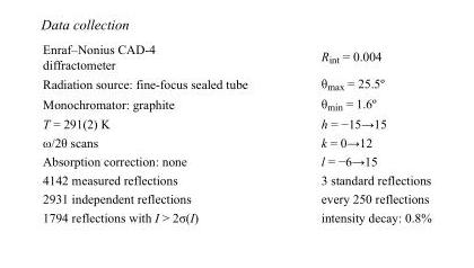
<table><tbody><tr><td>Enraf–Nonius CAD-4 diffractometer</td><td>R<sub>int</sub> = 0.004</td></tr><tr><td>Radiation source: fine-focus sealed tube</td><td>θ<sub>max</sub> = 25.5º</td></tr><tr><td>Monochromator: graphite</td><td>θ<sub>min</sub> = 1.6º</td></tr><tr><td>T = 291(2) K</td><td>h = −15→15</td></tr><tr><td>ω/2θ scans</td><td>k = 0→12</td></tr><tr><td>Absorption correction: none</td><td>l = −6→15</td></tr><tr><td>4142 measured reflections</td><td>3 standard reflections</td></tr><tr><td>2931 independent reflections</td><td>every 250 reflections</td></tr><tr><td>1794 reflections with I &gt; 2σ(I)</td><td>intensity decay: 0.8%</td></tr></tbody></table>